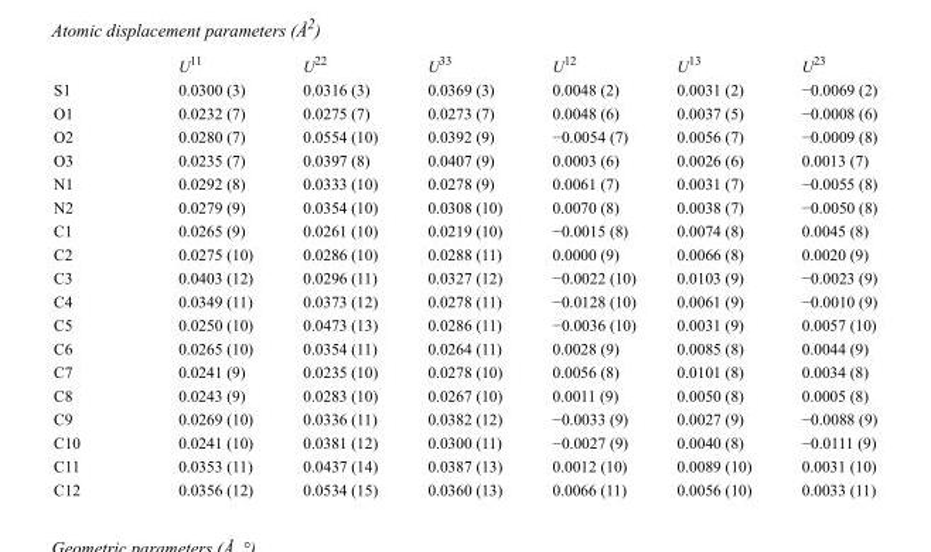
<table><thead><tr><td></td><td>U<sup>11</sup></td><td>U<sup>22</sup></td><td>U<sup>33</sup></td><td>U<sup>12</sup></td><td>U<sup>13</sup></td><td>U<sup>23</sup></td></tr></thead><tbody><tr><td>S1</td><td>0.0300 (3)</td><td>0.0316 (3)</td><td>0.0369 (3)</td><td>0.0048 (2)</td><td>0.0031 (2)</td><td>−0.0069 (2)</td></tr><tr><td>O1</td><td>0.0232 (7)</td><td>0.0275 (7)</td><td>0.0273 (7)</td><td>0.0048 (6)</td><td>0.0037 (5)</td><td>−0.0008 (6)</td></tr><tr><td>O2</td><td>0.0280 (7)</td><td>0.0554 (10)</td><td>0.0392 (9)</td><td>−0.0054 (7)</td><td>0.0056 (7)</td><td>−0.0009 (8)</td></tr><tr><td>O3</td><td>0.0235 (7)</td><td>0.0397 (8)</td><td>0.0407 (9)</td><td>0.0003 (6)</td><td>0.0026 (6)</td><td>0.0013 (7)</td></tr><tr><td>N1</td><td>0.0292 (8)</td><td>0.0333 (10)</td><td>0.0278 (9)</td><td>0.0061 (7)</td><td>0.0031 (7)</td><td>−0.0055 (8)</td></tr><tr><td>N2</td><td>0.0279 (9)</td><td>0.0354 (10)</td><td>0.0308 (10)</td><td>0.0070 (8)</td><td>0.0038 (7)</td><td>−0.0050 (8)</td></tr><tr><td>C1</td><td>0.0265 (9)</td><td>0.0261 (10)</td><td>0.0219 (10)</td><td>−0.0015 (8)</td><td>0.0074 (8)</td><td>0.0045 (8)</td></tr><tr><td>C2</td><td>0.0275 (10)</td><td>0.0286 (10)</td><td>0.0288 (11)</td><td>0.0000 (9)</td><td>0.0066 (8)</td><td>0.0020 (9)</td></tr><tr><td>C3</td><td>0.0403 (12)</td><td>0.0296 (11)</td><td>0.0327 (12)</td><td>−0.0022 (10)</td><td>0.0103 (9)</td><td>−0.0023 (9)</td></tr><tr><td>C4</td><td>0.0349 (11)</td><td>0.0373 (12)</td><td>0.0278 (11)</td><td>−0.0128 (10)</td><td>0.0061 (9)</td><td>−0.0010 (9)</td></tr><tr><td>C5</td><td>0.0250 (10)</td><td>0.0473 (13)</td><td>0.0286 (11)</td><td>−0.0036 (10)</td><td>0.0031 (9)</td><td>0.0057 (10)</td></tr><tr><td>C6</td><td>0.0265 (10)</td><td>0.0354 (11)</td><td>0.0264 (11)</td><td>0.0028 (9)</td><td>0.0085 (8)</td><td>0.0044 (9)</td></tr><tr><td>C7</td><td>0.0241 (9)</td><td>0.0235 (10)</td><td>0.0278 (10)</td><td>0.0056 (8)</td><td>0.0101 (8)</td><td>0.0034 (8)</td></tr><tr><td>C8</td><td>0.0243 (9)</td><td>0.0283 (10)</td><td>0.0267 (10)</td><td>0.0011 (9)</td><td>0.0050 (8)</td><td>0.0005 (8)</td></tr><tr><td>C9</td><td>0.0269 (10)</td><td>0.0336 (11)</td><td>0.0382 (12)</td><td>−0.0033 (9)</td><td>0.0027 (9)</td><td>−0.0088 (9)</td></tr><tr><td>C10</td><td>0.0241 (10)</td><td>0.0381 (12)</td><td>0.0300 (11)</td><td>−0.0027 (9)</td><td>0.0040 (8)</td><td>−0.0111 (9)</td></tr><tr><td>C11</td><td>0.0353 (11)</td><td>0.0437 (14)</td><td>0.0387 (13)</td><td>0.0012 (10)</td><td>0.0089 (10)</td><td>0.0031 (10)</td></tr><tr><td>C12</td><td>0.0356 (12)</td><td>0.0534 (15)</td><td>0.0360 (13)</td><td>0.0066 (11)</td><td>0.0056 (10)</td><td>0.0033 (11)</td></tr></tbody></table>